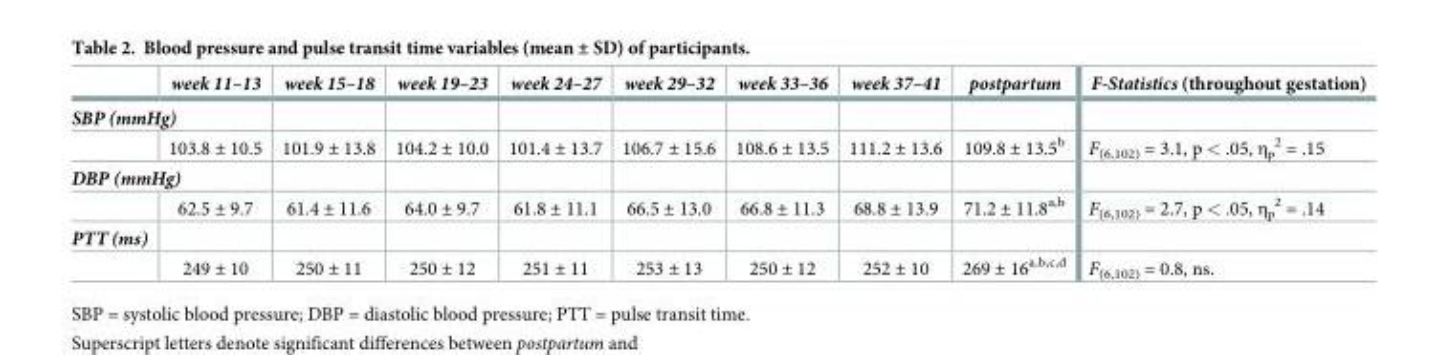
<table><thead><tr><td></td><td>week 11–13</td><td>week 15–18</td><td>week 19–23</td><td>week 24–27</td><td>week 29–32</td><td>week 33–36</td><td>week 37–41</td><td>postpartum</td><td>F-Statistics (throughout gestation)</td></tr></thead><tbody><tr><td colspan="10">SBP (mmHg)</td></tr><tr><td></td><td>103.8 ± 10.5</td><td>101.9 ± 13.8</td><td>104.2 ± 10.0</td><td>101.4 ± 13.7</td><td>106.7 ± 15.6</td><td>108.6 ± 13.5</td><td>111.2 ± 13.6</td><td>109.8 ± 13.5<sup>b</sup></td><td>F<sub>(6,102)</sub> = 3.1, p &lt; .05, η<sub>p</sub> <sup>2</sup> = .15</td></tr><tr><td colspan="10">DBP (mmHg)</td></tr><tr><td></td><td>62.5 ± 9.7</td><td>61.4 ± 11.6</td><td>64.0 ± 9.7</td><td>61.8 ± 11.1</td><td>66.5 ± 13.0</td><td>66.8 ± 11.3</td><td>68.8 ± 13.9</td><td>71.2 ± 11.8<sup>a,b</sup></td><td>F<sub>(6,102)</sub> = 2.7, p &lt; .05, η<sub>p</sub> <sup>2</sup> = .14</td></tr><tr><td colspan="10">PTT (ms)</td></tr><tr><td></td><td>249 ± 10</td><td>250 ± 11</td><td>250 ± 12</td><td>251 ± 11</td><td>253 ± 13</td><td>250 ± 12</td><td>252 ± 10</td><td>269 ± 16<sup>a,b,c,d</sup></td><td>F<sub>(6,102)</sub> = 0.8, ns.</td></tr></tbody></table>